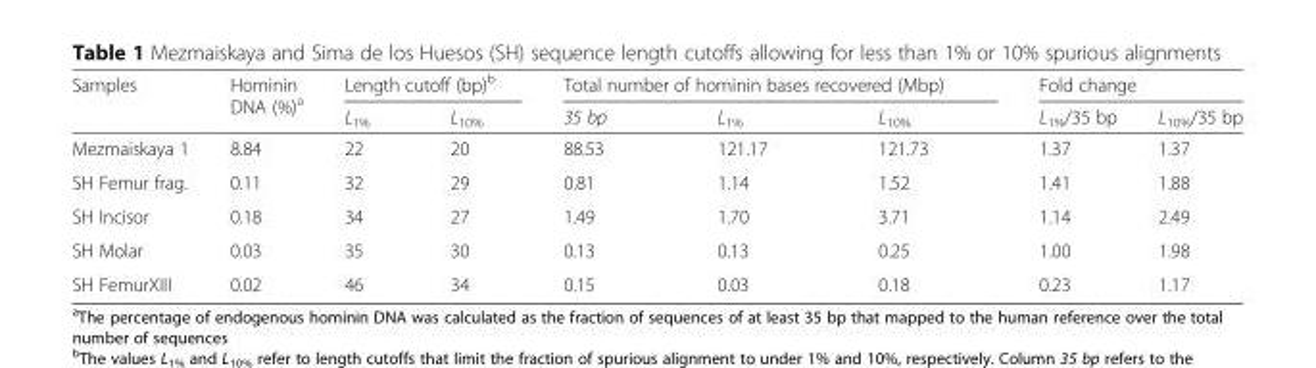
<table><thead><tr><td rowspan="2">Samples</td><td rowspan="2">Hominin DNA (%)<sup>a</sup></td><td colspan="2">Length cutoff (bp)<sup>b</sup></td><td colspan="3">Total number of hominin bases recovered (Mbp)</td><td colspan="2">Fold change</td></tr><tr><td>L<sub>1%</sub></td><td>L<sub>10%</sub></td><td>35 bp</td><td>L<sub>1%</sub></td><td>L<sub>10%</sub></td><td>L<sub>1%</sub>/35 bp</td><td>L<sub>10%</sub>/35 bp</td></tr></thead><tbody><tr><td>Mezmaiskaya 1</td><td>8.84</td><td>22</td><td>20</td><td>88.53</td><td>121.17</td><td>121.73</td><td>1.37</td><td>1.37</td></tr><tr><td>SH Femur frag.</td><td>0.11</td><td>32</td><td>29</td><td>0.81</td><td>1.14</td><td>1.52</td><td>1.41</td><td>1.88</td></tr><tr><td>SH Incisor</td><td>0.18</td><td>34</td><td>27</td><td>1.49</td><td>1.70</td><td>3.71</td><td>1.14</td><td>2.49</td></tr><tr><td>SH Molar</td><td>0.03</td><td>35</td><td>30</td><td>0.13</td><td>0.13</td><td>0.25</td><td>1.00</td><td>1.98</td></tr><tr><td>SH FemurXIII</td><td>0.02</td><td>46</td><td>34</td><td>0.15</td><td>0.03</td><td>0.18</td><td>0.23</td><td>1.17</td></tr></tbody></table>